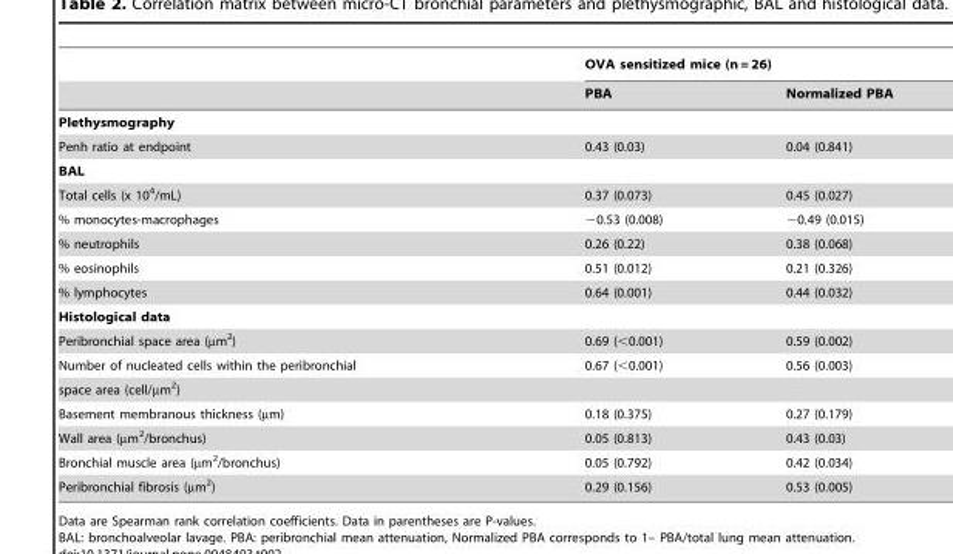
<table><thead><tr><td rowspan="2"></td><td colspan="2">OVA sensitized mice (n = 26)</td></tr><tr><td>PBA</td><td>Normalized PBA</td></tr></thead><tbody><tr><td colspan="3">Plethysmography</td></tr><tr><td>Penh ratio at endpoint</td><td>0.43 (0.03)</td><td>0.04 (0.841)</td></tr><tr><td colspan="3">BAL</td></tr><tr><td>Total cells (x 10<sup>4</sup>/mL)</td><td>0.37 (0.073)</td><td>0.45 (0.027)</td></tr><tr><td>% monocytes-macrophages</td><td>−0.53 (0.008)</td><td>−0.49 (0.015)</td></tr><tr><td>% neutrophils</td><td>0.26 (0.22)</td><td>0.38 (0.068)</td></tr><tr><td>% eosinophils</td><td>0.51 (0.012)</td><td>0.21 (0.326)</td></tr><tr><td>% lymphocytes</td><td>0.64 (0.001)</td><td>0.44 (0.032)</td></tr><tr><td colspan="3">Histological data</td></tr><tr><td>Peribronchial space area (µm<sup>2</sup>)</td><td>0.69 (&lt;0.001)</td><td>0.59 (0.002)</td></tr><tr><td>Number of nucleated cells within the peribronchial</td><td>0.67 (&lt;0.001)</td><td>0.56 (0.003)</td></tr><tr><td colspan="3">space area (cell/µm<sup>2</sup>)</td></tr><tr><td>Basement membranous thickness (µm)</td><td>0.18 (0.375)</td><td>0.27 (0.179)</td></tr><tr><td>Wall area (µm<sup>2</sup>/bronchus)</td><td>0.05 (0.813)</td><td>0.43 (0.03)</td></tr><tr><td>Bronchial muscle area (µm<sup>2</sup>/bronchus)</td><td>0.05 (0.792)</td><td>0.42 (0.034)</td></tr><tr><td>Peribronchial fibrosis (µm<sup>2</sup>)</td><td>0.29 (0.156)</td><td>0.53 (0.005)</td></tr></tbody></table>